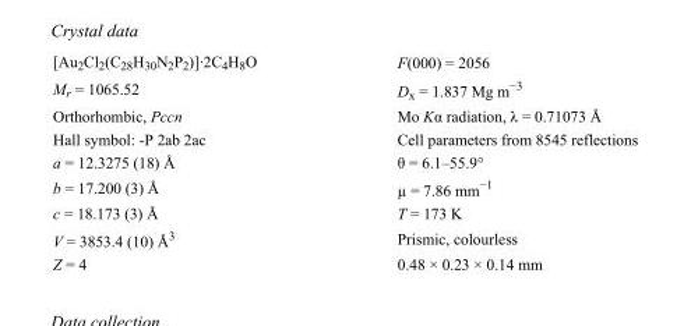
<table><tbody><tr><td>[Au<sub>2</sub>Cl<sub>2</sub>(C<sub>28</sub>H<sub>30</sub>N<sub>2</sub>P<sub>2</sub>)]·2C<sub>4</sub>H<sub>8</sub>O</td><td>F(000) = 2056</td></tr><tr><td>M<sub>r</sub> = 1065.52</td><td>D<sub>x</sub> = 1.837 Mg m<sup>−3</sup></td></tr><tr><td>Orthorhombic, Pccn</td><td>Mo Kα radiation, λ = 0.71073 Å</td></tr><tr><td>Hall symbol: -P 2ab 2ac</td><td>Cell parameters from 8545 reflections</td></tr><tr><td>a = 12.3275 (18) Å</td><td>θ = 6.1–55.9°</td></tr><tr><td>b = 17.200 (3) Å</td><td>µ = 7.86 mm<sup>−1</sup></td></tr><tr><td>c = 18.173 (3) Å</td><td>T = 173 K</td></tr><tr><td>V = 3853.4 (10) Å<sup>3</sup></td><td>Prismic, colourless</td></tr><tr><td>Z = 4</td><td>0.48 × 0.23 × 0.14 mm</td></tr></tbody></table>